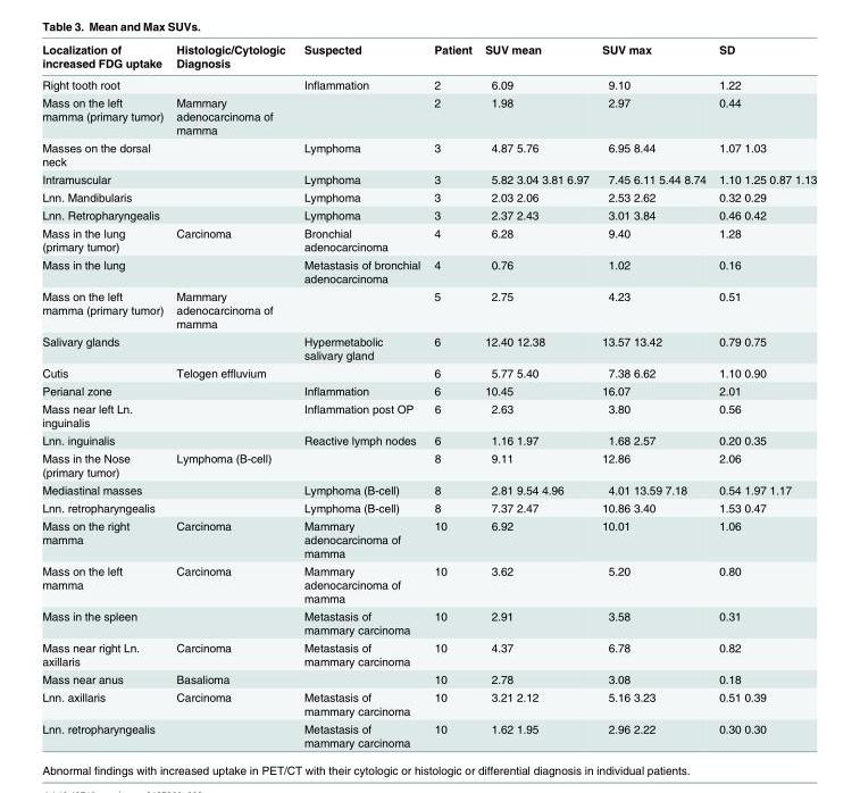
<table><thead><tr><td>Localization of increased FDG uptake</td><td>Histologic/Cytologic Diagnosis</td><td>Suspected</td><td>Patient</td><td>SUV mean</td><td>SUV max</td><td>SD</td></tr></thead><tbody><tr><td>Right tooth root</td><td></td><td>Inflammation</td><td>2</td><td>6.09</td><td>9.10</td><td>1.22</td></tr><tr><td>Mass on the left mamma (primary tumor)</td><td>Mammary adenocarcinoma of mamma</td><td></td><td>2</td><td>1.98</td><td>2.97</td><td>0.44</td></tr><tr><td>Masses on the dorsal neck</td><td></td><td>Lymphoma</td><td>3</td><td>4.87 5.76</td><td>6.95 8.44</td><td>1.07 1.03</td></tr><tr><td>Intramuscular</td><td></td><td>Lymphoma</td><td>3</td><td>5.82 3.04 3.81 6.97</td><td>7.45 6.11 5.44 8.74</td><td>1.10 1.25 0.87 1.13</td></tr><tr><td>Lnn. Mandibularis</td><td></td><td>Lymphoma</td><td>3</td><td>2.03 2.06</td><td>2.53 2.62</td><td>0.32 0.29</td></tr><tr><td>Lnn. Retropharyngealis</td><td></td><td>Lymphoma</td><td>3</td><td>2.37 2.43</td><td>3.01 3.84</td><td>0.46 0.42</td></tr><tr><td>Mass in the lung (primary tumor)</td><td>Carcinoma</td><td>Bronchial adenocarcinoma</td><td>4</td><td>6.28</td><td>9.40</td><td>1.28</td></tr><tr><td>Mass in the lung</td><td></td><td>Metastasis of bronchial adenocarcinoma</td><td>4</td><td>0.76</td><td>1.02</td><td>0.16</td></tr><tr><td>Mass on the left mamma (primary tumor)</td><td>Mammary adenocarcinoma of mamma</td><td></td><td>5</td><td>2.75</td><td>4.23</td><td>0.51</td></tr><tr><td>Salivary glands</td><td></td><td>Hypermetabolic salivary gland</td><td>6</td><td>12.40 12.38</td><td>13.57 13.42</td><td>0.79 0.75</td></tr><tr><td>Cutis</td><td>Telogen effluvium</td><td></td><td>6</td><td>5.77 5.40</td><td>7.38 6.62</td><td>1.10 0.90</td></tr><tr><td>Perianal zone</td><td></td><td>Inflammation</td><td>6</td><td>10.45</td><td>16.07</td><td>2.01</td></tr><tr><td>Mass near left Ln. inguinalis</td><td></td><td>Inflammation post OP</td><td>6</td><td>2.63</td><td>3.80</td><td>0.56</td></tr><tr><td>Lnn. inguinalis</td><td></td><td>Reactive lymph nodes</td><td>6</td><td>1.16 1.97</td><td>1.68 2.57</td><td>0.20 0.35</td></tr><tr><td>Mass in the Nose (primary tumor)</td><td>Lymphoma (B-cell)</td><td></td><td>8</td><td>9.11</td><td>12.86</td><td>2.06</td></tr><tr><td>Mediastinal masses</td><td></td><td>Lymphoma (B-cell)</td><td>8</td><td>2.81 9.54 4.96</td><td>4.01 13.59 7.18</td><td>0.54 1.97 1.17</td></tr><tr><td>Lnn. retropharyngealis</td><td></td><td>Lymphoma (B-cell)</td><td>8</td><td>7.37 2.47</td><td>10.86 3.40</td><td>1.53 0.47</td></tr><tr><td>Mass on the right mamma</td><td>Carcinoma</td><td>Mammary adenocarcinoma of mamma</td><td>10</td><td>6.92</td><td>10.01</td><td>1.06</td></tr><tr><td>Mass on the left mamma</td><td>Carcinoma</td><td>Mammary adenocarcinoma of mamma</td><td>10</td><td>3.62</td><td>5.20</td><td>0.80</td></tr><tr><td>Mass in the spleen</td><td></td><td>Metastasis of mammary carcinoma</td><td>10</td><td>2.91</td><td>3.58</td><td>0.31</td></tr><tr><td>Mass near right Ln. axillaris</td><td>Carcinoma</td><td>Metastasis of mammary carcinoma</td><td>10</td><td>4.37</td><td>6.78</td><td>0.82</td></tr><tr><td>Mass near anus</td><td>Basalioma</td><td></td><td>10</td><td>2.78</td><td>3.08</td><td>0.18</td></tr><tr><td>Lnn. axillaris</td><td>Carcinoma</td><td>Metastasis of mammary carcinoma</td><td>10</td><td>3.21 2.12</td><td>5.16 3.23</td><td>0.51 0.39</td></tr><tr><td>Lnn. retropharyngealis</td><td></td><td>Metastasis of mammary carcinoma</td><td>10</td><td>1.62 1.95</td><td>2.96 2.22</td><td>0.30 0.30</td></tr></tbody></table>